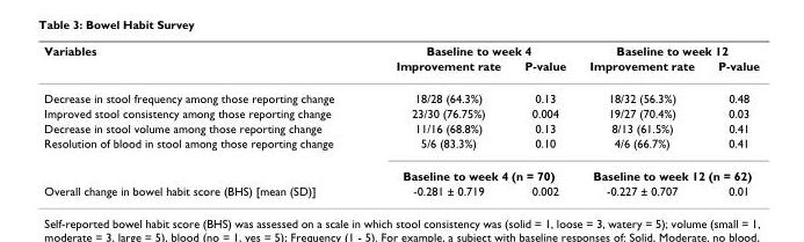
<table><thead><tr><td rowspan="2">Variables</td><td colspan="2">Baseline to week 4</td><td colspan="2">Baseline to week 12</td></tr><tr><td>Improvement rate</td><td>P-value</td><td>Improvement rate</td><td>P-value</td></tr></thead><tbody><tr><td>Decrease in stool frequency among those reporting change</td><td>18/28 (64.3%)</td><td>0.13</td><td>18/32 (56.3%)</td><td>0.48</td></tr><tr><td>Improved stool consistency among those reporting change</td><td>23/30 (76.75%)</td><td>0.004</td><td>19/27 (70.4%)</td><td>0.03</td></tr><tr><td>Decrease in stool volume among those reporting change</td><td>11/16 (68.8%)</td><td>0.13</td><td>8/13 (61.5%)</td><td>0.41</td></tr><tr><td rowspan="2">Resolution of blood in stool among those reporting change</td><td>5/6 (83.3%)</td><td>0.10</td><td>4/6 (66.7%)</td><td>0.41</td></tr><tr><td colspan="2">Baseline to week 4 (n = 70)</td><td colspan="2">Baseline to week 12 (n = 62)</td></tr><tr><td>Overall change in bowel habit score (BHS) [mean (SD)]</td><td>-0.281 ± 0.719</td><td>0.002</td><td>-0.227 ± 0.707</td><td>0.01</td></tr></tbody></table>